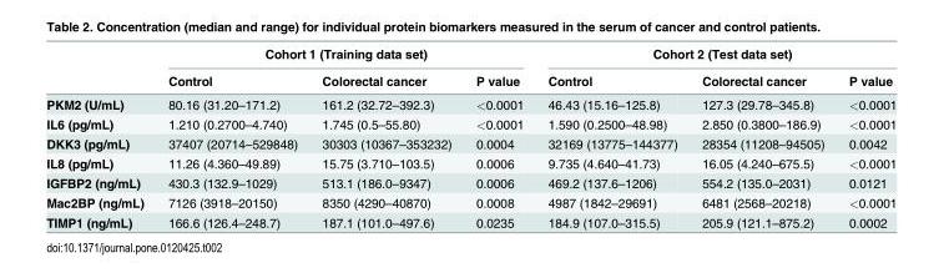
<table><thead><tr><td rowspan="2"></td><td colspan="3">Cohort 1 (Training data set)</td><td colspan="3">Cohort 2 (Test data set)</td></tr><tr><td>Control</td><td>Colorectal cancer</td><td>P value</td><td>Control</td><td>Colorectal cancer</td><td>P value</td></tr></thead><tbody><tr><td>PKM2 (U/mL)</td><td>80.16 (31.20–171.2)</td><td>161.2 (32.72–392.3)</td><td>&lt;0.0001</td><td>46.43 (15.16–125.8)</td><td>127.3 (29.78–345.8)</td><td>&lt;0.0001</td></tr><tr><td>IL6 (pg/mL)</td><td>1.210 (0.2700–4.740)</td><td>1.745 (0.5–55.80)</td><td>&lt;0.0001</td><td>1.590 (0.2500–48.98)</td><td>2.850 (0.3800–186.9)</td><td>&lt;0.0001</td></tr><tr><td>DKK3 (pg/mL)</td><td>37407 (20714–529848)</td><td>30303 (10367–353232)</td><td>0.0004</td><td>32169 (13775–144377)</td><td>28354 (11208–94505)</td><td>0.0042</td></tr><tr><td>IL8 (pg/mL)</td><td>11.26 (4.360–49.89)</td><td>15.75 (3.710–103.5)</td><td>0.0006</td><td>9.735 (4.640–41.73)</td><td>16.05 (4.240–675.5)</td><td>&lt;0.0001</td></tr><tr><td>IGFBP2 (ng/mL)</td><td>430.3 (132.9–1029)</td><td>513.1 (186.0–9347)</td><td>0.0006</td><td>469.2 (137.6–1206)</td><td>554.2 (135.0–2031)</td><td>0.0121</td></tr><tr><td>Mac2BP (ng/mL)</td><td>7126 (3918–20150)</td><td>8350 (4290–40870)</td><td>0.0008</td><td>4987 (1842–29691)</td><td>6481 (2568–20218)</td><td>&lt;0.0001</td></tr><tr><td>TIMP1 (ng/mL)</td><td>166.6 (126.4–248.7)</td><td>187.1 (101.0–497.6)</td><td>0.0235</td><td>184.9 (107.0–315.5)</td><td>205.9 (121.1–875.2)</td><td>0.0002</td></tr></tbody></table>